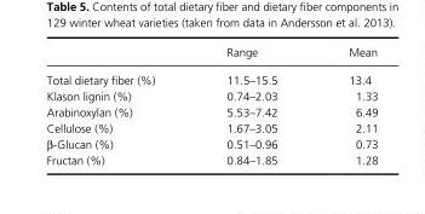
<table><thead><tr><td></td><td>Range</td><td>Mean</td></tr></thead><tbody><tr><td>Total dietary fiber (%)</td><td>11.5–15.5</td><td>13.4</td></tr><tr><td>Klason lignin (%)</td><td>0.74–2.03</td><td>1.33</td></tr><tr><td>Arabinoxylan (%)</td><td>5.53–7.42</td><td>6.49</td></tr><tr><td>Cellulose (%)</td><td>1.67–3.05</td><td>2.11</td></tr><tr><td>β- Glucan (%)</td><td>0.51–0.96</td><td>0.73</td></tr><tr><td>Fructan (%)</td><td>0.84–1.85</td><td>1.28</td></tr></tbody></table>